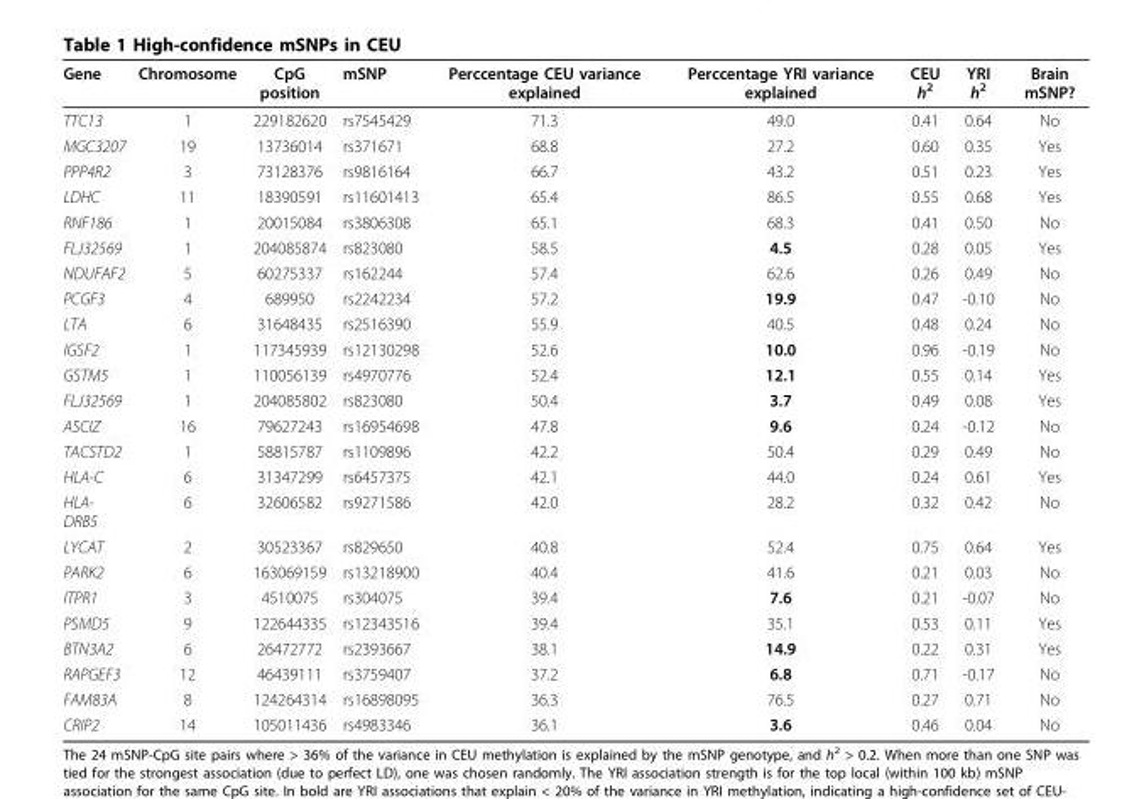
<table><thead><tr><td>Gene</td><td>Chromosome</td><td>CpG position</td><td>mSNP</td><td>Perccentage CEU variance explained</td><td>Perccentage YRI variance explained</td><td>CEU h<sup>2</sup></td><td>YRI h<sup>2</sup></td><td>Brain mSNP?</td></tr></thead><tbody><tr><td>TTC13</td><td>1</td><td>229182620</td><td>rs7545429</td><td>71.3</td><td>49.0</td><td>0.41</td><td>0.64</td><td>No</td></tr><tr><td>MGC3207</td><td>19</td><td>13736014</td><td>rs371671</td><td>68.8</td><td>27.2</td><td>0.60</td><td>0.35</td><td>Yes</td></tr><tr><td>PPP4R2</td><td>3</td><td>73128376</td><td>rs9816164</td><td>66.7</td><td>43.2</td><td>0.51</td><td>0.23</td><td>Yes</td></tr><tr><td>LDHC</td><td>11</td><td>18390591</td><td>rs11601413</td><td>65.4</td><td>86.5</td><td>0.55</td><td>0.68</td><td>Yes</td></tr><tr><td>RNF186</td><td>1</td><td>20015084</td><td>rs3806308</td><td>65.1</td><td>68.3</td><td>0.41</td><td>0.50</td><td>No</td></tr><tr><td>FLJ32569</td><td>1</td><td>204085874</td><td>rs823080</td><td>58.5</td><td>4.5</td><td>0.28</td><td>0.05</td><td>Yes</td></tr><tr><td>NDUFAF2</td><td>5</td><td>60275337</td><td>rs162244</td><td>57.4</td><td>62.6</td><td>0.26</td><td>0.49</td><td>No</td></tr><tr><td>PCGF3</td><td>4</td><td>689950</td><td>rs2242234</td><td>57.2</td><td>19.9</td><td>0.47</td><td>-0.10</td><td>No</td></tr><tr><td>LTA</td><td>6</td><td>31648435</td><td>rs2516390</td><td>55.9</td><td>40.5</td><td>0.48</td><td>0.24</td><td>No</td></tr><tr><td>IGSF2</td><td>1</td><td>117345939</td><td>rs12130298</td><td>52.6</td><td>10.0</td><td>0.96</td><td>-0.19</td><td>No</td></tr><tr><td>GSTM5</td><td>1</td><td>110056139</td><td>rs4970776</td><td>52.4</td><td>12.1</td><td>0.55</td><td>0.14</td><td>Yes</td></tr><tr><td>FLJ32569</td><td>1</td><td>204085802</td><td>rs823080</td><td>50.4</td><td>3.7</td><td>0.49</td><td>0.08</td><td>Yes</td></tr><tr><td>ASCIZ</td><td>16</td><td>79627243</td><td>rs16954698</td><td>47.8</td><td>9.6</td><td>0.24</td><td>-0.12</td><td>No</td></tr><tr><td>TACSTD2</td><td>1</td><td>58815787</td><td>rs1109896</td><td>42.2</td><td>50.4</td><td>0.29</td><td>0.49</td><td>No</td></tr><tr><td>HLA-C</td><td>6</td><td>31347299</td><td>rs6457375</td><td>42.1</td><td>44.0</td><td>0.24</td><td>0.61</td><td>Yes</td></tr><tr><td>HLA- DRB5</td><td>6</td><td>32606582</td><td>rs9271586</td><td>42.0</td><td>28.2</td><td>0.32</td><td>0.42</td><td>No</td></tr><tr><td>LYCAT</td><td>2</td><td>30523367</td><td>rs829650</td><td>40.8</td><td>52.4</td><td>0.75</td><td>0.64</td><td>Yes</td></tr><tr><td>PARK2</td><td>6</td><td>163069159</td><td>rs13218900</td><td>40.4</td><td>41.6</td><td>0.21</td><td>0.03</td><td>No</td></tr><tr><td>ITPR1</td><td>3</td><td>4510075</td><td>rs304075</td><td>39.4</td><td>7.6</td><td>0.21</td><td>-0.07</td><td>No</td></tr><tr><td>PSMD5</td><td>9</td><td>122644335</td><td>rs12343516</td><td>39.4</td><td>35.1</td><td>0.53</td><td>0.11</td><td>Yes</td></tr><tr><td>BTN3A2</td><td>6</td><td>26472772</td><td>rs2393667</td><td>38.1</td><td>14.9</td><td>0.22</td><td>0.31</td><td>Yes</td></tr><tr><td>RAPGEF3</td><td>12</td><td>46439111</td><td>rs3759407</td><td>37.2</td><td>6.8</td><td>0.71</td><td>-0.17</td><td>No</td></tr><tr><td>FAM83A</td><td>8</td><td>124264314</td><td>rs16898095</td><td>36.3</td><td>76.5</td><td>0.27</td><td>0.71</td><td>No</td></tr><tr><td>CRIP2</td><td>14</td><td>105011436</td><td>rs4983346</td><td>36.1</td><td>3.6</td><td>0.46</td><td>0.04</td><td>No</td></tr></tbody></table>